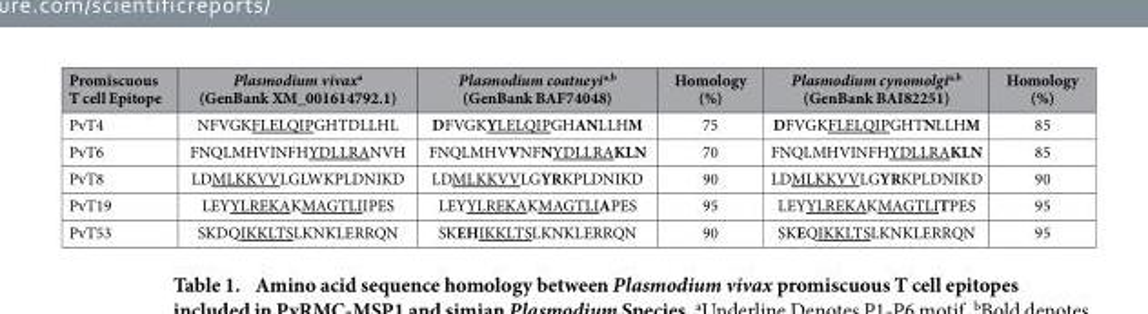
<table><thead><tr><td>Promiscuous T cell Epitope</td><td>Plasmodium vivax<sup>a</sup> (GenBank XM_001614792.1)</td><td>Plasmodium coatneyi<sup>a</sup>,<sup>b</sup> (GenBank BAF74048)</td><td>Homology (%)</td><td>Plasmodium cynomolgi<sup>a</sup>,<sup>b</sup> (GenBank BAI82251)</td><td>Homology (%)</td></tr></thead><tbody><tr><td>PvT4</td><td>NFVGKFLELQIPGHTDLLHL</td><td>DFVGKYLELQIPGHANLLHM</td><td>75</td><td>DFVGKFLELQIPGHTNLLHM</td><td>85</td></tr><tr><td>PvT6</td><td>FNQLMHVINFHYDLLRANVH</td><td>FNQLMHVVNFNYDLLRAKLN</td><td>70</td><td>FNQLMHVINFHYDLLRAKLN</td><td>85</td></tr><tr><td>PvT8</td><td>LDMLKKVVLGLWKPLDNIKD</td><td>LDMLKKVVLGYRKPLDNIKD</td><td>90</td><td>LDMLKKVVLGYRKPLDNIKD</td><td>90</td></tr><tr><td>PvT19</td><td>LEYYLREKAKMAGTLIIPES</td><td>LEYYLREKAKMAGTLIAPES</td><td>95</td><td>LEYYLREKAKMAGTLITPES</td><td>95</td></tr><tr><td>PvT53</td><td>SKDQIKKLTSLKNKLERRQN</td><td>SKEHIKKLTSLKNKLERRQN</td><td>90</td><td>SKEQIKKLTSLKNKLERRQN</td><td>95</td></tr></tbody></table>